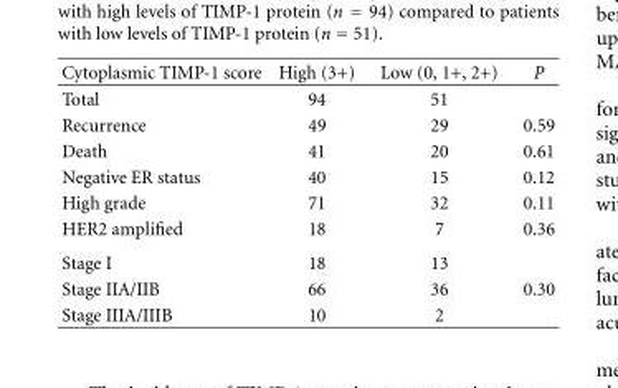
<table><thead><tr><td>Cytoplasmic TIMP-1 score</td><td>High (3+)</td><td>Low (0, 1+, 2+)</td><td>P</td></tr></thead><tbody><tr><td>Total</td><td>94</td><td>51</td><td></td></tr><tr><td>Recurrence</td><td>49</td><td>29</td><td>0.59</td></tr><tr><td>Death</td><td>41</td><td>20</td><td>0.61</td></tr><tr><td>Negative ER status</td><td>40</td><td>15</td><td>0.12</td></tr><tr><td>High grade</td><td>71</td><td>32</td><td>0.11</td></tr><tr><td>HER2 amplified</td><td>18</td><td>7</td><td>0.36</td></tr><tr><td>Stage I</td><td>18</td><td>13</td><td></td></tr><tr><td>Stage IIA/IIB</td><td>66</td><td>36</td><td>0.30</td></tr><tr><td>Stage IIIA/IIIB</td><td>10</td><td>2</td><td></td></tr></tbody></table>